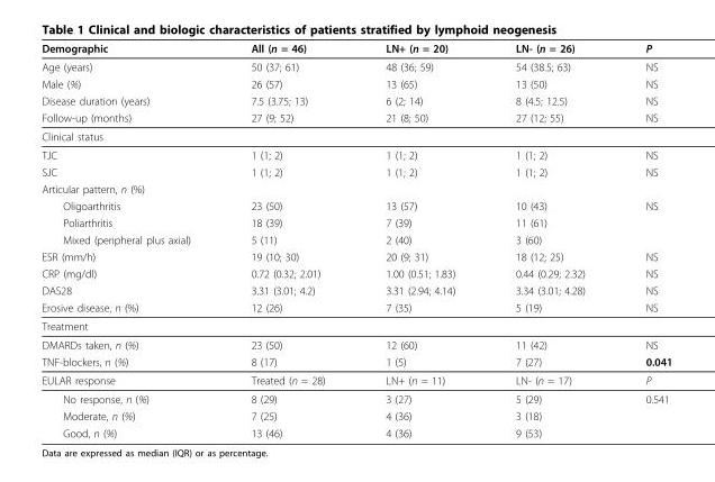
<table><thead><tr><td>Demographic</td><td>All (n = 46)</td><td>LN+ (n = 20)</td><td>LN- (n = 26)</td><td>P</td></tr></thead><tbody><tr><td>Age (years)</td><td>50 (37; 61)</td><td>48 (36; 59)</td><td>54 (38.5; 63)</td><td>NS</td></tr><tr><td>Male (%)</td><td>26 (57)</td><td>13 (65)</td><td>13 (50)</td><td>NS</td></tr><tr><td>Disease duration (years)</td><td>7.5 (3.75; 13)</td><td>6 (2; 14)</td><td>8 (4.5; 12.5)</td><td>NS</td></tr><tr><td>Follow-up (months)</td><td>27 (9; 52)</td><td>21 (8; 50)</td><td>27 (12; 55)</td><td>NS</td></tr><tr><td colspan="5">Clinical status</td></tr><tr><td>TJC</td><td>1 (1; 2)</td><td>1 (1; 2)</td><td>1 (1; 2)</td><td>NS</td></tr><tr><td>SJC</td><td>1 (1; 2)</td><td>1 (1; 2)</td><td>1 (1; 2)</td><td>NS</td></tr><tr><td colspan="5">Articular pattern, n (%)</td></tr><tr><td>Oligoarthritis</td><td>23 (50)</td><td>13 (57)</td><td>10 (43)</td><td>NS</td></tr><tr><td>Poliarthritis</td><td>18 (39)</td><td>7 (39)</td><td>11 (61)</td><td></td></tr><tr><td>Mixed (peripheral plus axial)</td><td>5 (11)</td><td>2 (40)</td><td>3 (60)</td><td></td></tr><tr><td>ESR (mm/h)</td><td>19 (10; 30)</td><td>20 (9; 31)</td><td>18 (12; 25)</td><td>NS</td></tr><tr><td>CRP (mg/dl)</td><td>0.72 (0.32; 2.01)</td><td>1.00 (0.51; 1.83)</td><td>0.44 (0.29; 2.32)</td><td>NS</td></tr><tr><td>DAS28</td><td>3.31 (3.01; 4.2)</td><td>3.31 (2.94; 4.14)</td><td>3.34 (3.01; 4.28)</td><td>NS</td></tr><tr><td>Erosive disease, n (%)</td><td>12 (26)</td><td>7 (35)</td><td>5 (19)</td><td>NS</td></tr><tr><td colspan="5">Treatment</td></tr><tr><td>DMARDs taken, n (%)</td><td>23 (50)</td><td>12 (60)</td><td>11 (42)</td><td>NS</td></tr><tr><td>TNF-blockers, n (%)</td><td>8 (17)</td><td>1 (5)</td><td>7 (27)</td><td>0.041</td></tr><tr><td>EULAR response</td><td>Treated (n = 28)</td><td>LN+ (n = 11)</td><td>LN- (n = 17)</td><td>P</td></tr><tr><td>No response, n (%)</td><td>8 (29)</td><td>3 (27)</td><td>5 (29)</td><td>0.541</td></tr><tr><td>Moderate, n (%)</td><td>7 (25)</td><td>4 (36)</td><td>3 (18)</td><td></td></tr><tr><td>Good, n (%)</td><td>13 (46)</td><td>4 (36)</td><td>9 (53)</td><td></td></tr></tbody></table>